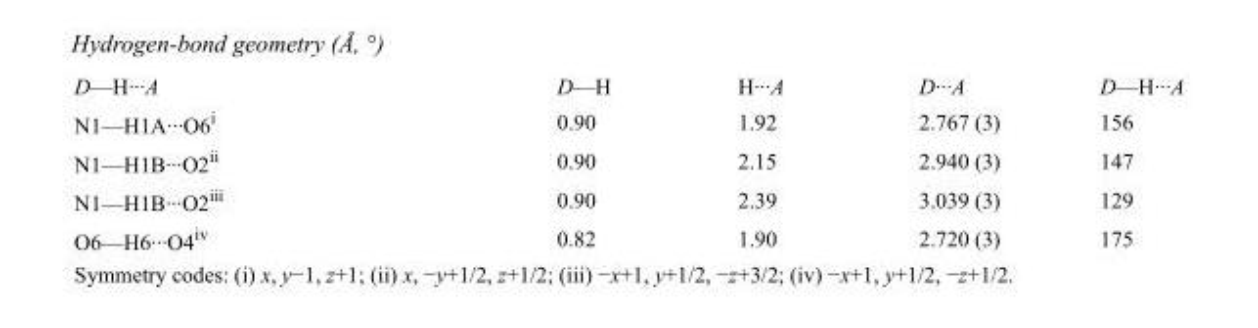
<table><tbody><tr><td>D—H···A</td><td>D—H</td><td>H···A</td><td>D···A</td><td>D—H···A</td></tr><tr><td>N1—H1A···O6<sup>i</sup></td><td>0.90</td><td>1.92</td><td>2.767 (3)</td><td>156</td></tr><tr><td>N1—H1B···O2<sup>ii</sup></td><td>0.90</td><td>2.15</td><td>2.940 (3)</td><td>147</td></tr><tr><td>N1—H1B···O2<sup>iii</sup></td><td>0.90</td><td>2.39</td><td>3.039 (3)</td><td>129</td></tr><tr><td>O6—H6···O4<sup>iv</sup></td><td>0.82</td><td>1.90</td><td>2.720 (3)</td><td>175</td></tr></tbody></table>